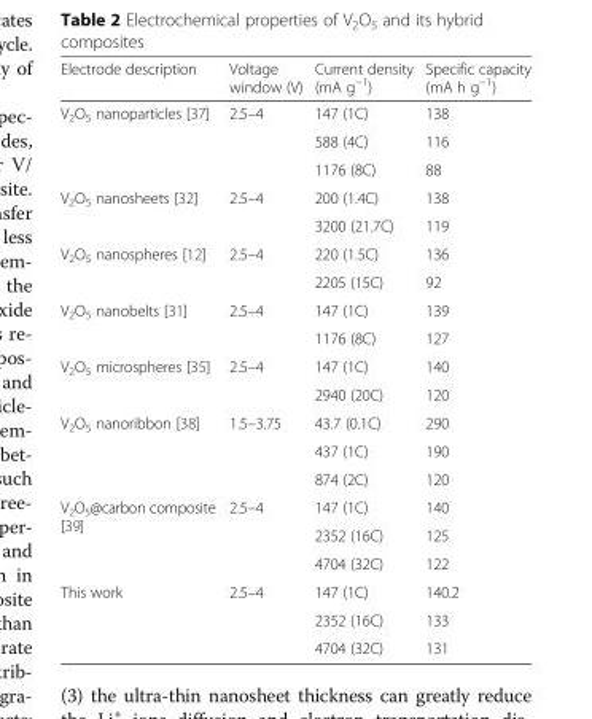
<table><thead><tr><td>Electrode description</td><td>Voltage window (V)</td><td>Current density (mA g<sup>−1</sup>)</td><td>Specific capacity (mA h g<sup>−1</sup>)</td></tr></thead><tbody><tr><td rowspan="3">V<sub>2</sub>O<sub>5</sub> nanoparticles [37]</td><td rowspan="3">2.5–4</td><td>147 (1C)</td><td>138</td></tr><tr><td>588 (4C)</td><td>116</td></tr><tr><td>1176 (8C)</td><td>88</td></tr><tr><td rowspan="2">V<sub>2</sub>O<sub>5</sub> nanosheets [32]</td><td rowspan="2">2.5–4</td><td>200 (1.4C)</td><td>138</td></tr><tr><td>3200 (21.7C)</td><td>119</td></tr><tr><td rowspan="2">V<sub>2</sub>O<sub>5</sub> nanospheres [12]</td><td rowspan="2">2.5–4</td><td>220 (1.5C)</td><td>136</td></tr><tr><td>2205 (15C)</td><td>92</td></tr><tr><td rowspan="2">V<sub>2</sub>O<sub>5</sub> nanobelts [31]</td><td rowspan="2">2.5–4</td><td>147 (1C)</td><td>139</td></tr><tr><td>1176 (8C)</td><td>127</td></tr><tr><td rowspan="2">V<sub>2</sub>O<sub>5</sub> microspheres [35]</td><td rowspan="2">2.5–4</td><td>147 (1C)</td><td>140</td></tr><tr><td>2940 (20C)</td><td>120</td></tr><tr><td rowspan="3">V<sub>2</sub>O<sub>5</sub> nanoribbon [38]</td><td rowspan="3">1.5–3.75</td><td>43.7 (0.1C)</td><td>290</td></tr><tr><td>437 (1C)</td><td>190</td></tr><tr><td>874 (2C)</td><td>120</td></tr><tr><td rowspan="3">V<sub>2</sub>O<sub>5</sub>@carbon composite [39]</td><td rowspan="3">2.5–4</td><td>147 (1C)</td><td>140</td></tr><tr><td>2352 (16C)</td><td>125</td></tr><tr><td>4704 (32C)</td><td>122</td></tr><tr><td rowspan="3">This work</td><td rowspan="3">2.5–4</td><td>147 (1C)</td><td>140.2</td></tr><tr><td>2352 (16C)</td><td>133</td></tr><tr><td>4704 (32C)</td><td>131</td></tr></tbody></table>